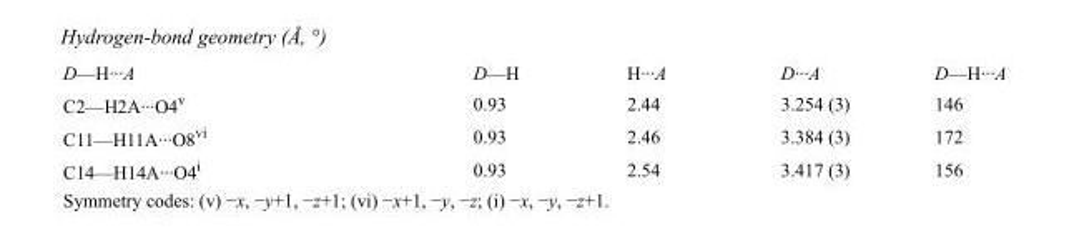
<table><tbody><tr><td>D—H···A</td><td>D—H</td><td>H···A</td><td>D···A</td><td>D—H···A</td></tr><tr><td>C2—H2A···O4<sup>v</sup></td><td>0.93</td><td>2.44</td><td>3.254 (3)</td><td>146</td></tr><tr><td>C11—H11A···O8<sup>vi</sup></td><td>0.93</td><td>2.46</td><td>3.384 (3)</td><td>172</td></tr><tr><td>C14—H14A···O4<sup>i</sup></td><td>0.93</td><td>2.54</td><td>3.417 (3)</td><td>156</td></tr></tbody></table>